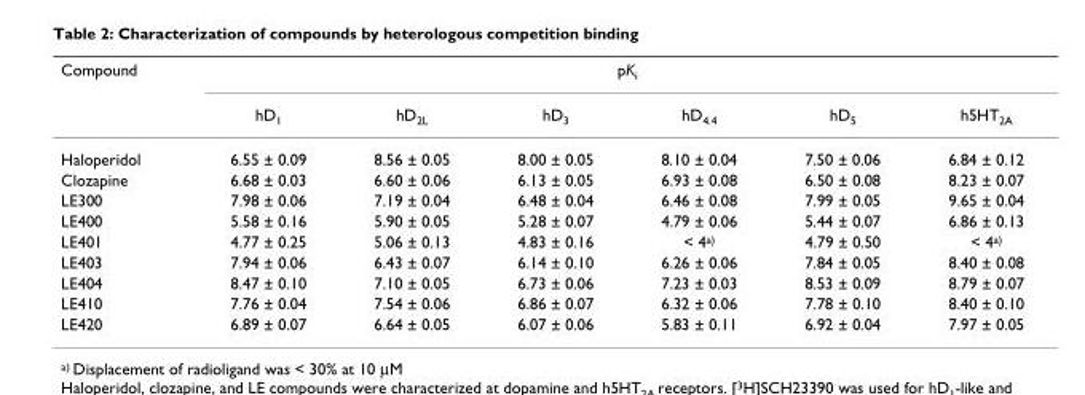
<table><thead><tr><td rowspan="2">Compound</td><td colspan="6">pK<sub>i</sub></td></tr><tr><td>hD<sub>1</sub></td><td>hD<sub>2L</sub></td><td>hD<sub>3</sub></td><td>hD<sub>4.4</sub></td><td>hD<sub>5</sub></td><td>h5HT<sub>2A</sub></td></tr></thead><tbody><tr><td>Haloperidol</td><td>6.55 ± 0.09</td><td>8.56 ± 0.05</td><td>8.00 ± 0.05</td><td>8.10 ± 0.04</td><td>7.50 ± 0.06</td><td>6.84 ± 0.12</td></tr><tr><td>Clozapine</td><td>6.68 ± 0.03</td><td>6.60 ± 0.06</td><td>6.13 ± 0.05</td><td>6.93 ± 0.08</td><td>6.50 ± 0.08</td><td>8.23 ± 0.07</td></tr><tr><td>LE300</td><td>7.98 ± 0.06</td><td>7.19 ± 0.04</td><td>6.48 ± 0.04</td><td>6.46 ± 0.08</td><td>7.99 ± 0.05</td><td>9.65 ± 0.04</td></tr><tr><td>LE400</td><td>5.58 ± 0.16</td><td>5.90 ± 0.05</td><td>5.28 ± 0.07</td><td>4.79 ± 0.06</td><td>5.44 ± 0.07</td><td>6.86 ± 0.13</td></tr><tr><td>LE401</td><td>4.77 ± 0.25</td><td>5.06 ± 0.13</td><td>4.83 ± 0.16</td><td>&lt; 4<sup>a)</sup></td><td>4.79 ± 0.50</td><td>&lt; 4<sup>a)</sup></td></tr><tr><td>LE403</td><td>7.94 ± 0.06</td><td>6.43 ± 0.07</td><td>6.14 ± 0.10</td><td>6.26 ± 0.06</td><td>7.84 ± 0.05</td><td>8.40 ± 0.08</td></tr><tr><td>LE404</td><td>8.47 ± 0.10</td><td>7.10 ± 0.05</td><td>6.73 ± 0.06</td><td>7.23 ± 0.03</td><td>8.53 ± 0.09</td><td>8.79 ± 0.07</td></tr><tr><td>LE410</td><td>7.76 ± 0.04</td><td>7.54 ± 0.06</td><td>6.86 ± 0.07</td><td>6.32 ± 0.06</td><td>7.78 ± 0.10</td><td>8.40 ± 0.10</td></tr><tr><td>LE420</td><td>6.89 ± 0.07</td><td>6.64 ± 0.05</td><td>6.07 ± 0.06</td><td>5.83 ± 0.11</td><td>6.92 ± 0.04</td><td>7.97 ± 0.05</td></tr></tbody></table>